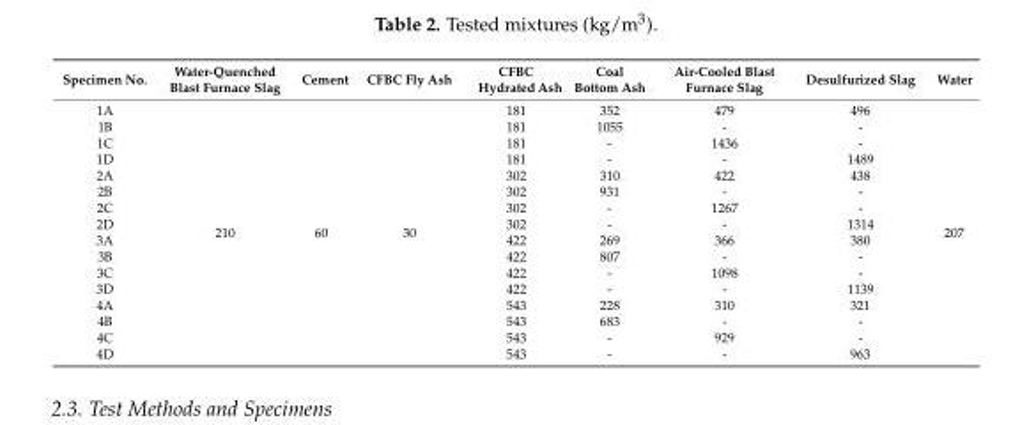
<table><thead><tr><td>Specimen No.</td><td>Water-Quenched Blast Furnace Slag</td><td>Cement</td><td>CFBC Fly Ash</td><td>CFBC Hydrated Ash</td><td>Coal Bottom Ash</td><td>Air-Cooled Blast Furnace Slag</td><td>Desulfurized Slag</td><td>Water</td></tr></thead><tbody><tr><td>1A</td><td rowspan="16">210</td><td rowspan="16">60</td><td rowspan="16">30</td><td>181</td><td>352</td><td>479</td><td>496</td><td rowspan="16">207</td></tr><tr><td>1B</td><td>181</td><td>1055</td><td>-</td><td>-</td></tr><tr><td>1C</td><td>181</td><td>-</td><td>1436</td><td>-</td></tr><tr><td>1D</td><td>181</td><td>-</td><td>-</td><td>1489</td></tr><tr><td>2A</td><td>302</td><td>310</td><td>422</td><td>438</td></tr><tr><td>2B</td><td>302</td><td>931</td><td>-</td><td>-</td></tr><tr><td>2C</td><td>302</td><td>-</td><td>1267</td><td>-</td></tr><tr><td>2D</td><td>302</td><td>-</td><td>-</td><td>1314</td></tr><tr><td>3A</td><td>422</td><td>269</td><td>366</td><td>380</td></tr><tr><td>3B</td><td>422</td><td>807</td><td>-</td><td>-</td></tr><tr><td>3C</td><td>422</td><td>-</td><td>1098</td><td>-</td></tr><tr><td>3D</td><td>422</td><td>-</td><td>-</td><td>1139</td></tr><tr><td>4A</td><td>543</td><td>228</td><td>310</td><td>321</td></tr><tr><td>4B</td><td>543</td><td>683</td><td>-</td><td>-</td></tr><tr><td>4C</td><td>543</td><td>-</td><td>929</td><td>-</td></tr><tr><td>4D</td><td>543</td><td>-</td><td>-</td><td>963</td></tr></tbody></table>